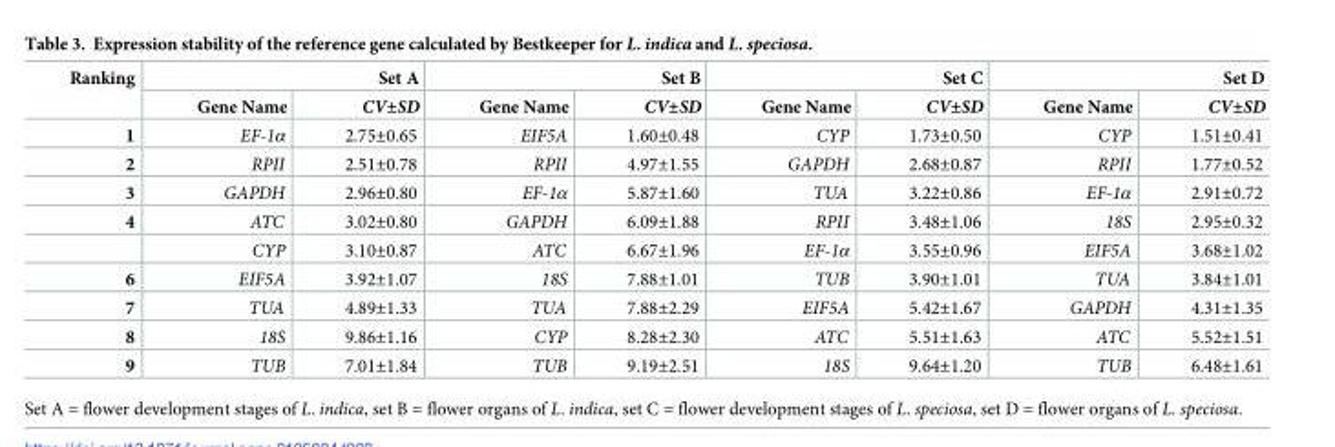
<table><thead><tr><td rowspan="2">Ranking</td><td colspan="2">Set A</td><td colspan="2">Set B</td><td colspan="2">Set C</td><td colspan="2">Set D</td></tr><tr><td>Gene Name</td><td>CV±SD</td><td>Gene Name</td><td>CV±SD</td><td>Gene Name</td><td>CV±SD</td><td>Gene Name</td><td>CV±SD</td></tr></thead><tbody><tr><td>1</td><td>EF-1α</td><td>2.75±0.65</td><td>EIF5A</td><td>1.60±0.48</td><td>CYP</td><td>1.73±0.50</td><td>CYP</td><td>1.51±0.41</td></tr><tr><td>2</td><td>RPII</td><td>2.51±0.78</td><td>RPII</td><td>4.97±1.55</td><td>GAPDH</td><td>2.68±0.87</td><td>RPII</td><td>1.77±0.52</td></tr><tr><td>3</td><td>GAPDH</td><td>2.96±0.80</td><td>EF-1α</td><td>5.87±1.60</td><td>TUA</td><td>3.22±0.86</td><td>EF-1α</td><td>2.91±0.72</td></tr><tr><td rowspan="2">4</td><td>ATC</td><td>3.02±0.80</td><td>GAPDH</td><td>6.09±1.88</td><td>RPII</td><td>3.48±1.06</td><td>18S</td><td>2.95±0.32</td></tr><tr><td>CYP</td><td>3.10±0.87</td><td>ATC</td><td>6.67±1.96</td><td>EF-1α</td><td>3.55±0.96</td><td>EIF5A</td><td>3.68±1.02</td></tr><tr><td>6</td><td>EIF5A</td><td>3.92±1.07</td><td>18S</td><td>7.88±1.01</td><td>TUB</td><td>3.90±1.01</td><td>TUA</td><td>3.84±1.01</td></tr><tr><td>7</td><td>TUA</td><td>4.89±1.33</td><td>TUA</td><td>7.88±2.29</td><td>EIF5A</td><td>5.42±1.67</td><td>GAPDH</td><td>4.31±1.35</td></tr><tr><td>8</td><td>18S</td><td>9.86±1.16</td><td>CYP</td><td>8.28±2.30</td><td>ATC</td><td>5.51±1.63</td><td>ATC</td><td>5.52±1.51</td></tr><tr><td>9</td><td>TUB</td><td>7.01±1.84</td><td>TUB</td><td>9.19±2.51</td><td>18S</td><td>9.64±1.20</td><td>TUB</td><td>6.48±1.61</td></tr></tbody></table>